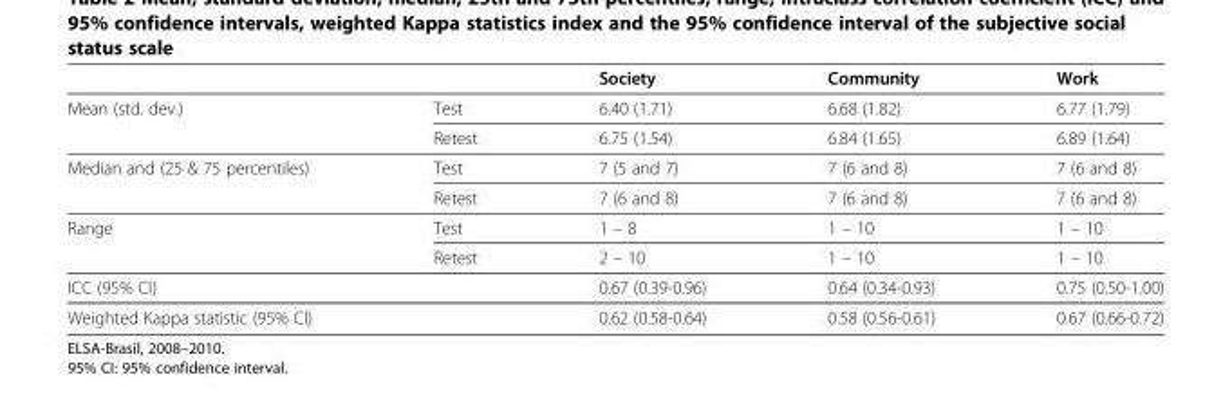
<table><thead><tr><td></td><td></td><td>Society</td><td>Community</td><td>Work</td></tr></thead><tbody><tr><td rowspan="2">Mean (std. dev.)</td><td>Test</td><td>6.40 (1.71)</td><td>6.68 (1.82)</td><td>6.77 (1.79)</td></tr><tr><td>Retest</td><td>6.75 (1.54)</td><td>6.84 (1.65)</td><td>6.89 (1.64)</td></tr><tr><td rowspan="2">Median and (25 &amp; 75 percentiles)</td><td>Test</td><td>7 (5 and 7)</td><td>7 (6 and 8)</td><td>7 (6 and 8)</td></tr><tr><td>Retest</td><td>7 (6 and 8)</td><td>7 (6 and 8)</td><td>7 (6 and 8)</td></tr><tr><td rowspan="2">Range</td><td>Test</td><td>1 – 8</td><td>1 – 10</td><td>1 – 10</td></tr><tr><td>Retest</td><td>2 – 10</td><td>1 – 10</td><td>1 – 10</td></tr><tr><td>ICC (95% CI)</td><td></td><td>0.67 (0.39-0.96)</td><td>0.64 (0.34-0.93)</td><td>0.75 (0.50-1.00)</td></tr><tr><td>Weighted Kappa statistic (95% CI)</td><td></td><td>0.62 (0.58-0.64)</td><td>0.58 (0.56-0.61)</td><td>0.67 (0.66-0.72)</td></tr></tbody></table>